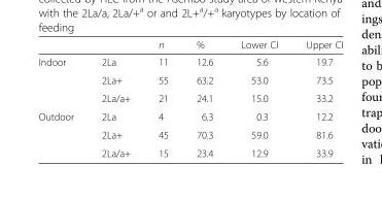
<table><thead><tr><td></td><td></td><td>n</td><td>%</td><td>Lower CI</td><td>Upper CI</td></tr></thead><tbody><tr><td rowspan="3">Indoor</td><td>2La</td><td>11</td><td>12.6</td><td>5.6</td><td>19.7</td></tr><tr><td>2La+</td><td>55</td><td>63.2</td><td>53.0</td><td>73.5</td></tr><tr><td>2La/a+</td><td>21</td><td>24.1</td><td>15.0</td><td>33.2</td></tr><tr><td rowspan="3">Outdoor</td><td>2La</td><td>4</td><td>6.3</td><td>0.3</td><td>12.2</td></tr><tr><td>2La+</td><td>45</td><td>70.3</td><td>59.0</td><td>81.6</td></tr><tr><td>2La/a+</td><td>15</td><td>23.4</td><td>12.9</td><td>33.9</td></tr></tbody></table>